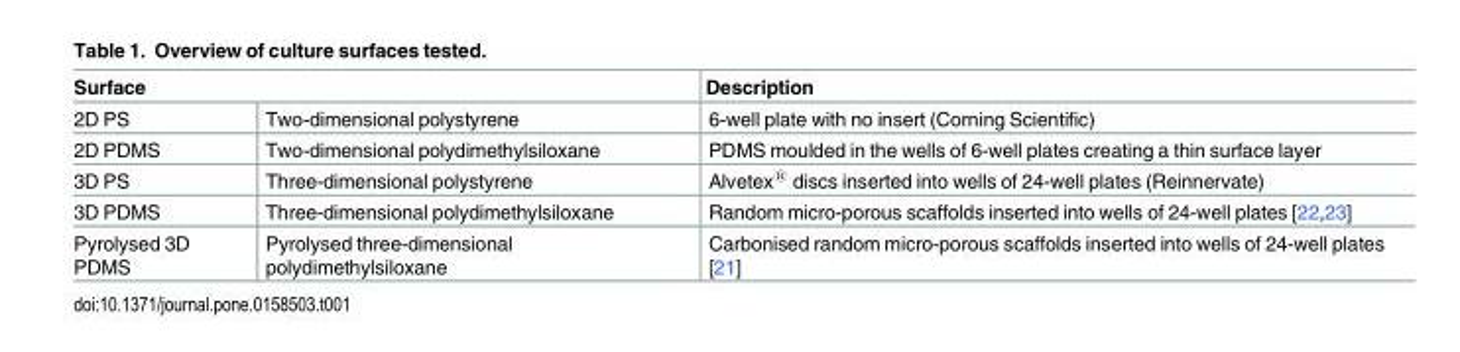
<table><thead><tr><td colspan="2">Surface</td><td rowspan="2">Description 6-well plate with no insert (Corning Scientific)</td></tr><tr><td>2D PS</td><td>Two-dimensional polystyrene</td></tr></thead><tbody><tr><td>2D PDMS</td><td>Two-dimensional polydimethylsiloxane</td><td>PDMS moulded in the wells of 6-well plates creating a thin surface layer</td></tr><tr><td>3D PS</td><td>Three-dimensional polystyrene</td><td>Alvetex<sup>®</sup> discs inserted into wells of 24-well plates (Reinnervate)</td></tr><tr><td>3D PDMS</td><td>Three-dimensional polydimethylsiloxane</td><td>Random micro-porous scaffolds inserted into wells of 24-well plates [22,23]</td></tr><tr><td>Pyrolysed 3D PDMS</td><td>Pyrolysed three-dimensional polydimethylsiloxane</td><td>Carbonised random micro-porous scaffolds inserted into wells of 24-well plates [21]</td></tr></tbody></table>